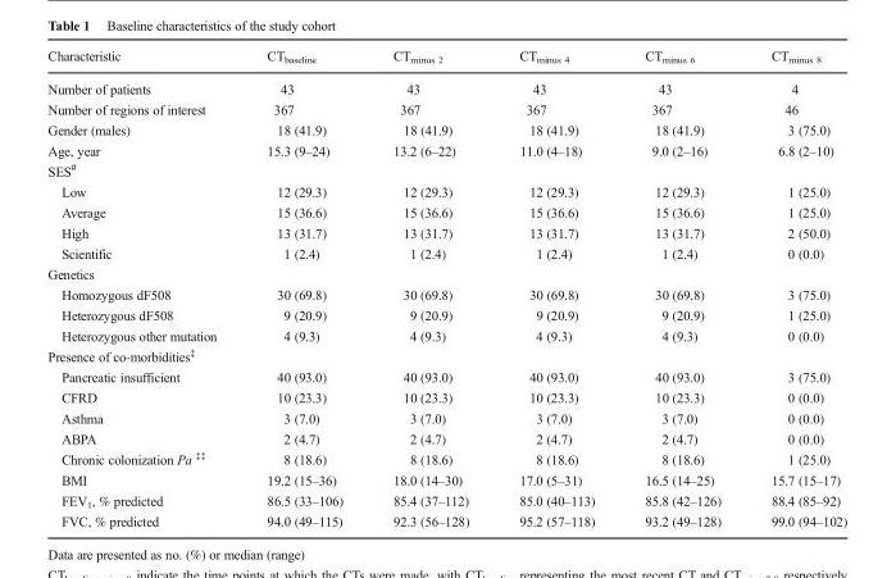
<table><thead><tr><td>Characteristic</td><td>CT<sub>baseline</sub></td><td>CT<sub>minus 2</sub></td><td>CT<sub>minus 4</sub></td><td>CT<sub>minus 6</sub></td><td>CT<sub>minus 8</sub></td></tr></thead><tbody><tr><td>Number of patients</td><td>43</td><td>43</td><td>43</td><td>43</td><td>4</td></tr><tr><td>Number of regions of interest</td><td>367</td><td>367</td><td>367</td><td>367</td><td>46</td></tr><tr><td>Gender (males)</td><td>18 (41.9)</td><td>18 (41.9)</td><td>18 (41.9)</td><td>18 (41.9)</td><td>3 (75.0)</td></tr><tr><td>Age, year</td><td>15.3 (9–24)</td><td>13.2 (6–22)</td><td>11.0 (4–18)</td><td>9.0 (2–16)</td><td>6.8 (2–10)</td></tr><tr><td colspan="6">SES<sup>#</sup></td></tr><tr><td>Low</td><td>12 (29.3)</td><td>12 (29.3)</td><td>12 (29.3)</td><td>12 (29.3)</td><td>1 (25.0)</td></tr><tr><td>Average</td><td>15 (36.6)</td><td>15 (36.6)</td><td>15 (36.6)</td><td>15 (36.6)</td><td>1 (25.0)</td></tr><tr><td>High</td><td>13 (31.7)</td><td>13 (31.7)</td><td>13 (31.7)</td><td>13 (31.7)</td><td>2 (50.0)</td></tr><tr><td>Scientific</td><td>1 (2.4)</td><td>1 (2.4)</td><td>1 (2.4)</td><td>1 (2.4)</td><td>0 (0.0)</td></tr><tr><td colspan="6">Genetics</td></tr><tr><td>Homozygous dF508</td><td>30 (69.8)</td><td>30 (69.8)</td><td>30 (69.8)</td><td>30 (69.8)</td><td>3 (75.0)</td></tr><tr><td>Heterozygous dF508</td><td>9 (20.9)</td><td>9 (20.9)</td><td>9 (20.9)</td><td>9 (20.9)</td><td>1 (25.0)</td></tr><tr><td>Heterozygous other mutation</td><td>4 (9.3)</td><td>4 (9.3)</td><td>4 (9.3)</td><td>4 (9.3)</td><td>0 (0.0)</td></tr><tr><td colspan="6">Presence of co-morbidities<sup>‡</sup></td></tr><tr><td>Pancreatic insufficient</td><td>40 (93.0)</td><td>40 (93.0)</td><td>40 (93.0)</td><td>40 (93.0)</td><td>3 (75.0)</td></tr><tr><td>CFRD</td><td>10 (23.3)</td><td>10 (23.3)</td><td>10 (23.3)</td><td>10 (23.3)</td><td>0 (0.0)</td></tr><tr><td>Asthma</td><td>3 (7.0)</td><td>3 (7.0)</td><td>3 (7.0)</td><td>3 (7.0)</td><td>0 (0.0)</td></tr><tr><td>ABPA</td><td>2 (4.7)</td><td>2 (4.7)</td><td>2 (4.7)</td><td>2 (4.7)</td><td>0 (0.0)</td></tr><tr><td>Chronic colonization Pa <sup>‡‡</sup></td><td>8 (18.6)</td><td>8 (18.6)</td><td>8 (18.6)</td><td>8 (18.6)</td><td>1 (25.0)</td></tr><tr><td>BMI</td><td>19.2 (15–36)</td><td>18.0 (14–30)</td><td>17.0 (5–31)</td><td>16.5 (14–25)</td><td>15.7 (15–17)</td></tr><tr><td>FEV<sub>1</sub>, % predicted</td><td>86.5 (33–106)</td><td>85.4 (37–112)</td><td>85.0 (40–113)</td><td>85.8 (42–126)</td><td>88.4 (85–92)</td></tr><tr><td>FVC, % predicted</td><td>94.0 (49–115)</td><td>92.3 (56–128)</td><td>95.2 (57–118)</td><td>93.2 (49–128)</td><td>99.0 (94–102)</td></tr></tbody></table>